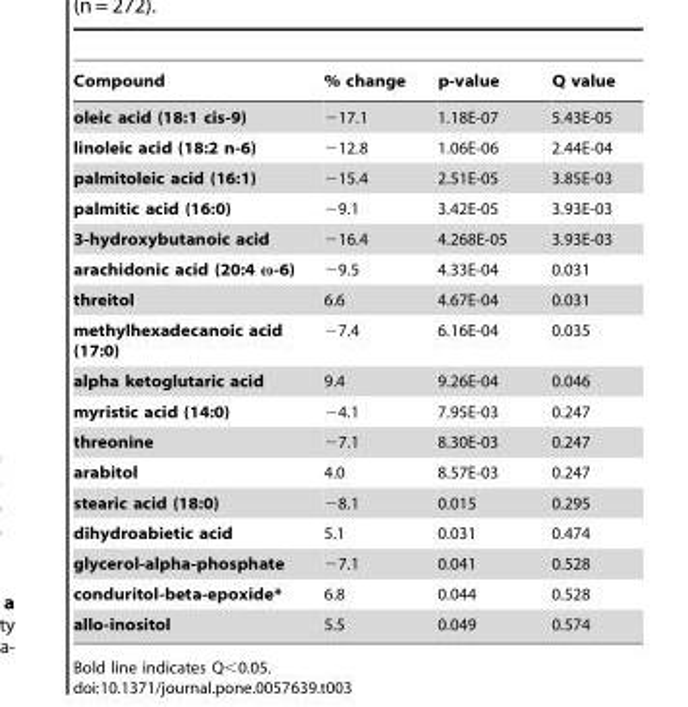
<table><thead><tr><td>Compound</td><td>% change</td><td>p-value</td><td>Q value</td></tr></thead><tbody><tr><td>oleic acid (18:1 cis-9)</td><td>−17.1</td><td>1.18E-07</td><td>5.43E-05</td></tr><tr><td>linoleic acid (18:2 n-6)</td><td>−12.8</td><td>1.06E-06</td><td>2.44E-04</td></tr><tr><td>palmitoleic acid (16:1)</td><td>−15.4</td><td>2.51E-05</td><td>3.85E-03</td></tr><tr><td>palmitic acid (16:0)</td><td>−9.1</td><td>3.42E-05</td><td>3.93E-03</td></tr><tr><td>3-hydroxybutanoic acid</td><td>−16.4</td><td>4.268E-05</td><td>3.93E-03</td></tr><tr><td>arachidonic acid (20:4 ω-6)</td><td>−9.5</td><td>4.33E-04</td><td>0.031</td></tr><tr><td>threitol</td><td>6.6</td><td>4.67E-04</td><td>0.031</td></tr><tr><td>methylhexadecanoic acid (17:0)</td><td>−7.4</td><td>6.16E-04</td><td>0.035</td></tr><tr><td>alpha ketoglutaric acid</td><td>9.4</td><td>9.26E-04</td><td>0.046</td></tr><tr><td>myristic acid (14:0)</td><td>−4.1</td><td>7.95E-03</td><td>0.247</td></tr><tr><td>threonine</td><td>−7.1</td><td>8.30E-03</td><td>0.247</td></tr><tr><td>arabitol</td><td>4.0</td><td>8.57E-03</td><td>0.247</td></tr><tr><td>stearic acid (18:0)</td><td>−8.1</td><td>0.015</td><td>0.295</td></tr><tr><td>dihydroabietic acid</td><td>5.1</td><td>0.031</td><td>0.474</td></tr><tr><td>glycerol-alpha-phosphate</td><td>−7.1</td><td>0.041</td><td>0.528</td></tr><tr><td>conduritol-beta-epoxide*</td><td>6.8</td><td>0.044</td><td>0.528</td></tr><tr><td>allo-inositol</td><td>5.5</td><td>0.049</td><td>0.574</td></tr></tbody></table>